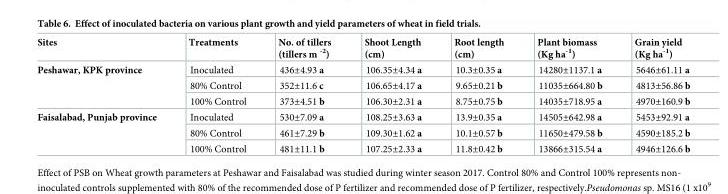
<table><thead><tr><td>Sites</td><td>Treatments</td><td>No. of tillers (tillers m <sup>-2</sup>)</td><td>Shoot Length (cm)</td><td>Root length (cm)</td><td>Plant biomass (Kg ha<sup>-1</sup>)</td><td>Grain yield (Kg ha<sup>-1</sup>)</td></tr></thead><tbody><tr><td rowspan="3">Peshawar, KPK province</td><td>Inoculated</td><td>436±4.93 a</td><td>106.35±4.34 a</td><td>10.3±0.35 a</td><td>14280±1137.1 a</td><td>5646±61.11 a</td></tr><tr><td>80% Control</td><td>352±11.6 c</td><td>106.65±4.17 a</td><td>9.65±0.21 b</td><td>11035±664.80 b</td><td>4813±56.86 b</td></tr><tr><td>100% Control</td><td>373±4.51 b</td><td>106.30±2.31 a</td><td>8.75±0.75 b</td><td>14035±718.95 a</td><td>4970±160.9 b</td></tr><tr><td rowspan="3">Faisalabad, Punjab province</td><td>Inoculated</td><td>530±7.09 a</td><td>108.25±3.63 a</td><td>13.9±0.35 a</td><td>14505±642.98 a</td><td>5453±92.91 a</td></tr><tr><td>80% Control</td><td>461±7.29 b</td><td>109.30±1.62 a</td><td>10.1±0.57 b</td><td>11650±479.58 b</td><td>4590±185.2 b</td></tr><tr><td>100% Control</td><td>481±11.1 b</td><td>107.25±2.33 a</td><td>11.8±0.42 b</td><td>13866±315.54 a</td><td>4946±126.6 b</td></tr></tbody></table>